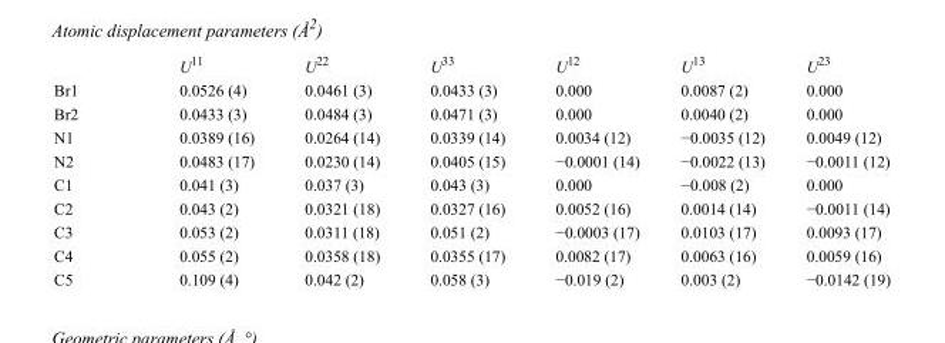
<table><thead><tr><td></td><td>U<sup>11</sup></td><td>U<sup>22</sup></td><td>U<sup>33</sup></td><td>U<sup>12</sup></td><td>U<sup>13</sup></td><td>U<sup>23</sup></td></tr></thead><tbody><tr><td>Br1</td><td>0.0526 (4)</td><td>0.0461 (3)</td><td>0.0433 (3)</td><td>0.000</td><td>0.0087 (2)</td><td>0.000</td></tr><tr><td>Br2</td><td>0.0433 (3)</td><td>0.0484 (3)</td><td>0.0471 (3)</td><td>0.000</td><td>0.0040 (2)</td><td>0.000</td></tr><tr><td>N1</td><td>0.0389 (16)</td><td>0.0264 (14)</td><td>0.0339 (14)</td><td>0.0034 (12)</td><td>−0.0035 (12)</td><td>0.0049 (12)</td></tr><tr><td>N2</td><td>0.0483 (17)</td><td>0.0230 (14)</td><td>0.0405 (15)</td><td>−0.0001 (14)</td><td>−0.0022 (13)</td><td>−0.0011 (12)</td></tr><tr><td>C1</td><td>0.041 (3)</td><td>0.037 (3)</td><td>0.043 (3)</td><td>0.000</td><td>−0.008 (2)</td><td>0.000</td></tr><tr><td>C2</td><td>0.043 (2)</td><td>0.0321 (18)</td><td>0.0327 (16)</td><td>0.0052 (16)</td><td>0.0014 (14)</td><td>−0.0011 (14)</td></tr><tr><td>C3</td><td>0.053 (2)</td><td>0.0311 (18)</td><td>0.051 (2)</td><td>−0.0003 (17)</td><td>0.0103 (17)</td><td>0.0093 (17)</td></tr><tr><td>C4</td><td>0.055 (2)</td><td>0.0358 (18)</td><td>0.0355 (17)</td><td>0.0082 (17)</td><td>0.0063 (16)</td><td>0.0059 (16)</td></tr><tr><td>C5</td><td>0.109 (4)</td><td>0.042 (2)</td><td>0.058 (3)</td><td>−0.019 (2)</td><td>0.003 (2)</td><td>−0.0142 (19)</td></tr></tbody></table>